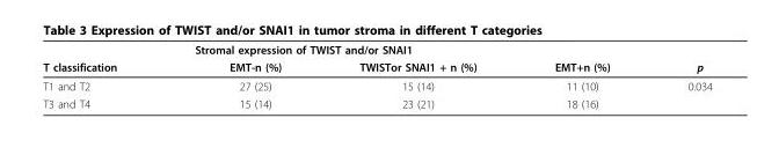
<table><thead><tr><td rowspan="2">T classification</td><td colspan="4">Stromal expression of TWIST and/or SNAI1</td></tr><tr><td>EMT-n (%)</td><td>TWISTor SNAI1 + n (%)</td><td>EMT+n (%)</td><td>p</td></tr></thead><tbody><tr><td>T1 and T2</td><td>27 (25)</td><td>15 (14)</td><td>11 (10)</td><td>0.034</td></tr><tr><td>T3 and T4</td><td>15 (14)</td><td>23 (21)</td><td>18 (16)</td><td></td></tr></tbody></table>